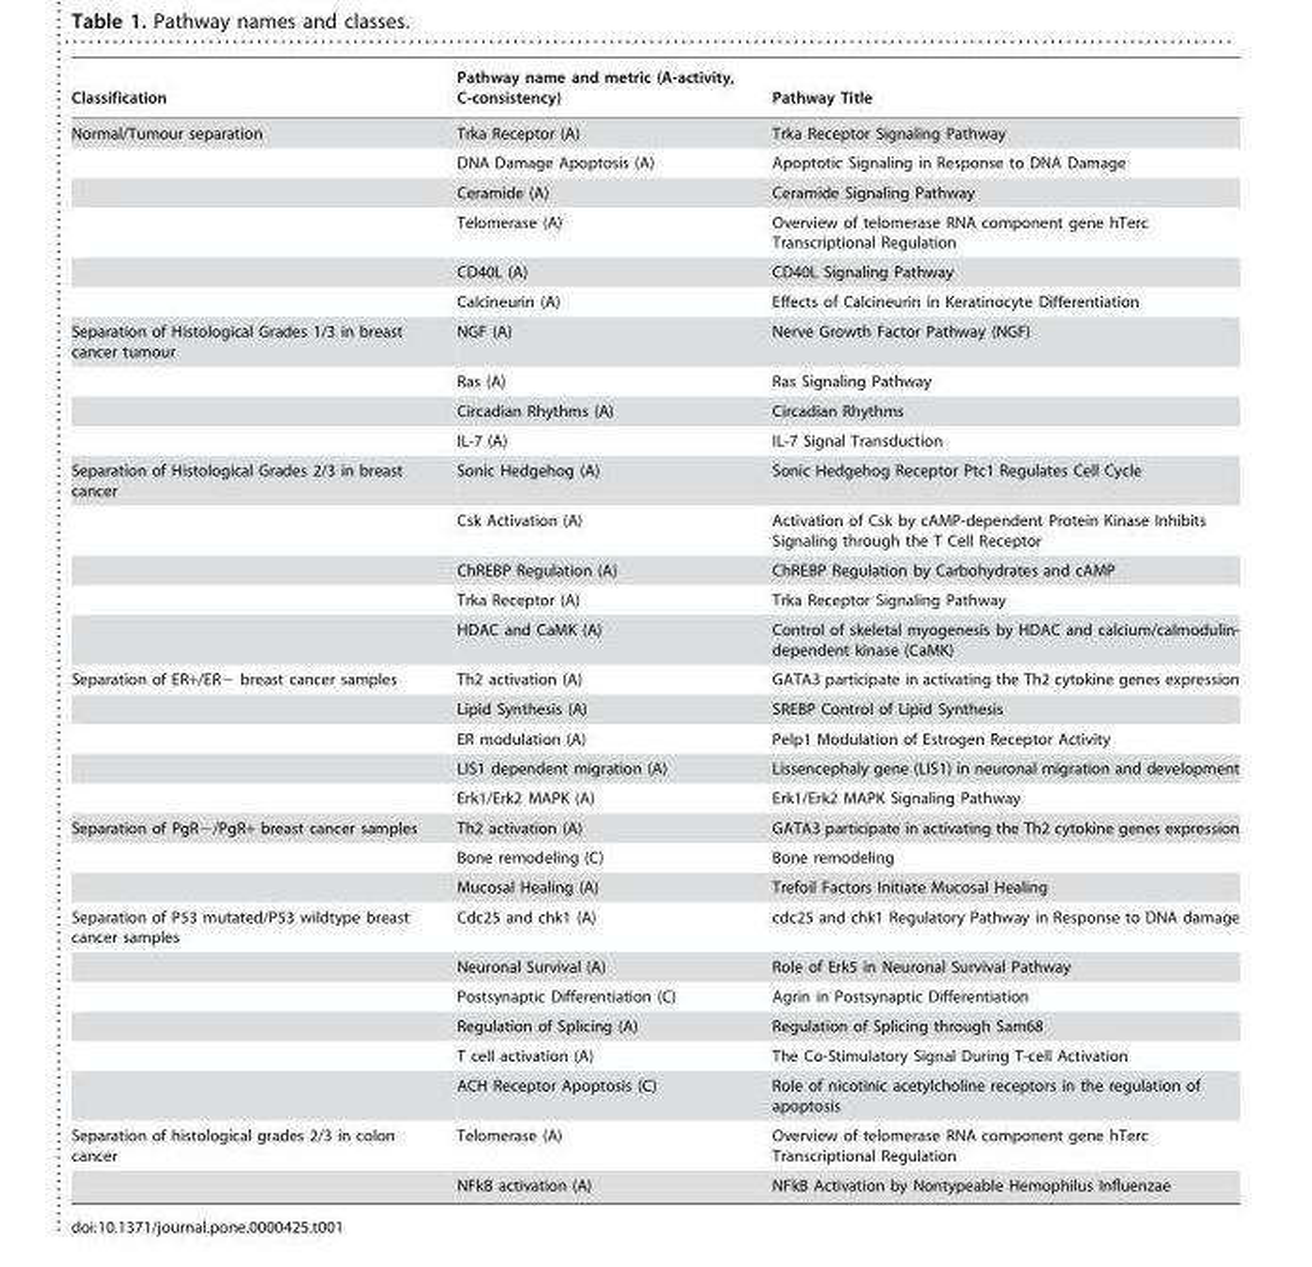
<table><thead><tr><td>Classification</td><td>Pathway name and metric (A-activity, C-consistency)</td><td>Pathway Title</td></tr></thead><tbody><tr><td rowspan="6">Normal/Tumour separation</td><td>Trka Receptor (A)</td><td>Trka Receptor Signaling Pathway</td></tr><tr><td>DNA Damage Apoptosis (A)</td><td>Apoptotic Signaling in Response to DNA Damage</td></tr><tr><td>Ceramide (A)</td><td>Ceramide Signaling Pathway</td></tr><tr><td>Telomerase (A)</td><td>Overview of telomerase RNA component gene hTerc Transcriptional Regulation</td></tr><tr><td>CD40L (A)</td><td>CD40L Signaling Pathway</td></tr><tr><td>Calcineurin (A)</td><td>Effects of Calcineurin in Keratinocyte Differentiation</td></tr><tr><td rowspan="4">Separation of Histological Grades 1/3 in breast cancer tumour</td><td>NGF (A)</td><td>Nerve Growth Factor Pathway (NGF)</td></tr><tr><td>Ras (A)</td><td>Ras Signaling Pathway</td></tr><tr><td>Circadian Rhythms (A)</td><td>Circadian Rhythms</td></tr><tr><td>IL-7 (A)</td><td>IL-7 Signal Transduction</td></tr><tr><td rowspan="5">Separation of Histological Grades 2/3 in breast cancer</td><td>Sonic Hedgehog (A)</td><td>Sonic Hedgehog Receptor Ptc1 Regulates Cell Cycle</td></tr><tr><td>Csk Activation (A)</td><td>Activation of Csk by cAMP-dependent Protein Kinase Inhibits Signaling through the T Cell Receptor</td></tr><tr><td>ChREBP Regulation (A)</td><td>ChREBP Regulation by Carbohydrates and cAMP</td></tr><tr><td>Trka Receptor (A)</td><td>Trka Receptor Signaling Pathway</td></tr><tr><td>HDAC and CaMK (A)</td><td>Control of skeletal myogenesis by HDAC and calcium/calmodulin- dependent kinase (CaMK)</td></tr><tr><td rowspan="5">Separation of ER+/ER− breast cancer samples</td><td>Th2 activation (A)</td><td>GATA3 participate in activating the Th2 cytokine genes expression</td></tr><tr><td>Lipid Synthesis (A)</td><td>SREBP Control of Lipid Synthesis</td></tr><tr><td>ER modulation (A)</td><td>Pelp1 Modulation of Estrogen Receptor Activity</td></tr><tr><td>LIS1 dependent migration (A)</td><td>Lissencephaly gene (LIS1) in neuronal migration and development</td></tr><tr><td>Erk1/Erk2 MAPK (A)</td><td>Erk1/Erk2 MAPK Signaling Pathway</td></tr><tr><td rowspan="3">Separation of PgR−/PgR+ breast cancer samples</td><td>Th2 activation (A)</td><td>GATA3 participate in activating the Th2 cytokine genes expression</td></tr><tr><td>Bone remodeling (C)</td><td>Bone remodeling</td></tr><tr><td>Mucosal Healing (A)</td><td>Trefoil Factors Initiate Mucosal Healing</td></tr><tr><td rowspan="6">Separation of P53 mutated/P53 wildtype breast cancer samples</td><td>Cdc25 and chk1 (A)</td><td>cdc25 and chk1 Regulatory Pathway in Response to DNA damage</td></tr><tr><td>Neuronal Survival (A)</td><td>Role of Erk5 in Neuronal Survival Pathway</td></tr><tr><td>Postsynaptic Differentiation (C)</td><td>Agrin in Postsynaptic Differentiation</td></tr><tr><td>Regulation of Splicing (A)</td><td>Regulation of Splicing through Sam68</td></tr><tr><td>T cell activation (A)</td><td>The Co-Stimulatory Signal During T-cell Activation</td></tr><tr><td>ACH Receptor Apoptosis (C)</td><td>Role of nicotinic acetylcholine receptors in the regulation of apoptosis</td></tr><tr><td rowspan="2">Separation of histological grades 2/3 in colon cancer</td><td>Telomerase (A)</td><td>Overview of telomerase RNA component gene hTerc Transcriptional Regulation</td></tr><tr><td>NFkB activation (A)</td><td>NFkB Activation by Nontypeable Hemophilus Influenzae</td></tr></tbody></table>